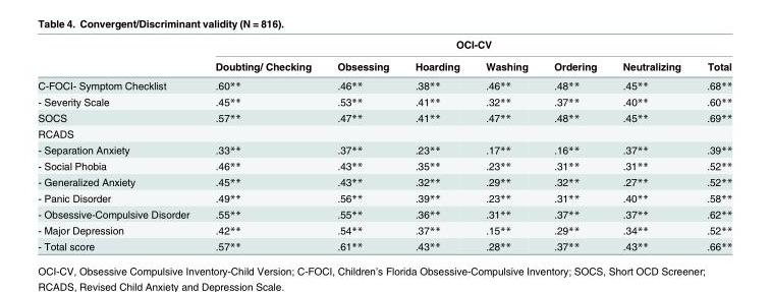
<table><thead><tr><td rowspan="2"></td><td colspan="7">OCI-CV</td></tr><tr><td>Doubting/ Checking</td><td>Obsessing</td><td>Hoarding</td><td>Washing</td><td>Ordering</td><td>Neutralizing</td><td>Total</td></tr></thead><tbody><tr><td>C-FOCI- Symptom Checklist</td><td>.60**</td><td>.46**</td><td>.38**</td><td>.46**</td><td>.48**</td><td>.45**</td><td>.68**</td></tr><tr><td>- Severity Scale</td><td>.45**</td><td>.53**</td><td>.41**</td><td>.32**</td><td>.37**</td><td>.40**</td><td>.60**</td></tr><tr><td>SOCS</td><td>.57**</td><td>.47**</td><td>.41**</td><td>.47**</td><td>.48**</td><td>.45**</td><td>.69**</td></tr><tr><td colspan="8">RCADS</td></tr><tr><td>- Separation Anxiety</td><td>.33**</td><td>.37**</td><td>.23**</td><td>.17**</td><td>.16**</td><td>.37**</td><td>.39**</td></tr><tr><td>- Social Phobia</td><td>.46**</td><td>.43**</td><td>.35**</td><td>.23**</td><td>.31**</td><td>.31**</td><td>.52**</td></tr><tr><td>- Generalized Anxiety</td><td>.45**</td><td>.43**</td><td>.32**</td><td>.29**</td><td>.32**</td><td>.27**</td><td>.52**</td></tr><tr><td>- Panic Disorder</td><td>.49**</td><td>.56**</td><td>.39**</td><td>.23**</td><td>.31**</td><td>.40**</td><td>.58**</td></tr><tr><td>- Obsessive-Compulsive Disorder</td><td>.55**</td><td>.55**</td><td>.36**</td><td>.31**</td><td>.37**</td><td>.37**</td><td>.62**</td></tr><tr><td>- Major Depression</td><td>.42**</td><td>.54**</td><td>.37**</td><td>.15**</td><td>.29**</td><td>.34**</td><td>.52**</td></tr><tr><td>- Total score</td><td>.57**</td><td>.61**</td><td>.43**</td><td>.28**</td><td>.37**</td><td>.43**</td><td>.66**</td></tr></tbody></table>